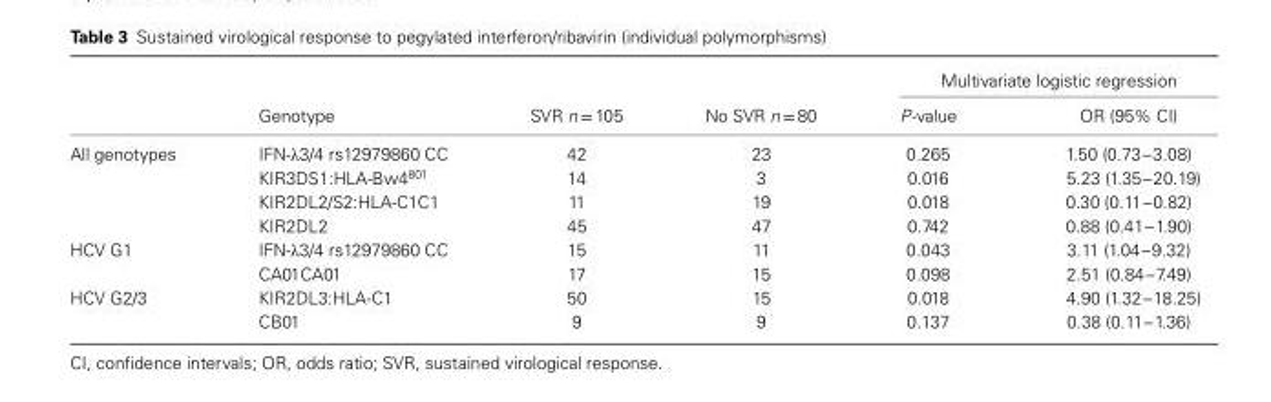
<table><thead><tr><td rowspan="2"></td><td rowspan="2">Genotype</td><td rowspan="2">SVR n = 105</td><td rowspan="2">No SVR n = 80</td><td colspan="2">Multivariate logistic regression</td></tr><tr><td>P-value</td><td>OR (95% CI)</td></tr></thead><tbody><tr><td rowspan="4">All genotypes</td><td>IFN-λ3/4 rs12979860 CC</td><td>42</td><td>23</td><td>0.265</td><td>1.50 (0.73–3.08)</td></tr><tr><td>KIR3DS1:HLA-Bw4<sup>801</sup></td><td>14</td><td>3</td><td>0.016</td><td>5.23 (1.35–20.19)</td></tr><tr><td>KIR2DL2/S2:HLA-C1C1</td><td>11</td><td>19</td><td>0.018</td><td>0.30 (0.11–0.82)</td></tr><tr><td>KIR2DL2</td><td>45</td><td>47</td><td>0.742</td><td>0.88 (0.41–1.90)</td></tr><tr><td rowspan="2">HCV G1</td><td>IFN-λ3/4 rs12979860 CC</td><td>15</td><td>11</td><td>0.043</td><td>3.11 (1.04–9.32)</td></tr><tr><td>CA01CA01</td><td>17</td><td>15</td><td>0.098</td><td>2.51 (0.84–7.49)</td></tr><tr><td rowspan="2">HCV G2/3</td><td>KIR2DL3:HLA-C1</td><td>50</td><td>15</td><td>0.018</td><td>4.90 (1.32–18.25)</td></tr><tr><td>CB01</td><td>9</td><td>9</td><td>0.137</td><td>0.38 (0.11–1.36)</td></tr></tbody></table>